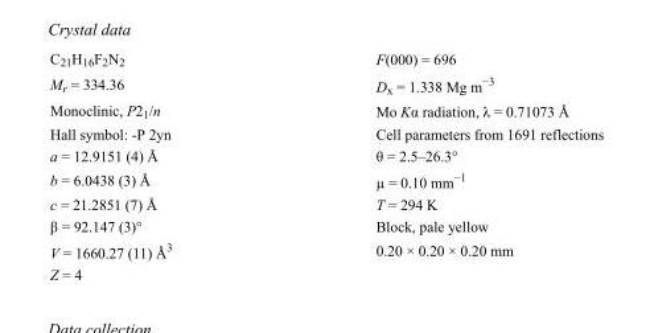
<table><tbody><tr><td>C<sub>21</sub>H<sub>16</sub>F<sub>2</sub>N<sub>2</sub></td><td>F(000) = 696</td></tr><tr><td>M<sub>r</sub> = 334.36</td><td>D<sub>x</sub> = 1.338 Mg m<sup>−3</sup></td></tr><tr><td>Monoclinic, P2<sub>1</sub>/n</td><td>Mo Kα radiation, λ = 0.71073 Å</td></tr><tr><td>Hall symbol: -P 2yn</td><td>Cell parameters from 1691 reflections</td></tr><tr><td>a = 12.9151 (4) Å</td><td>θ = 2.5–26.3°</td></tr><tr><td>b = 6.0438 (3) Å</td><td>µ = 0.10 mm<sup>−1</sup></td></tr><tr><td>c = 21.2851 (7) Å</td><td>T = 294 K</td></tr><tr><td>β = 92.147 (3)°</td><td>Block, pale yellow</td></tr><tr><td>V = 1660.27 (11) Å<sup>3</sup></td><td>0.20 × 0.20 × 0.20 mm</td></tr><tr><td>Z = 4</td><td></td></tr></tbody></table>